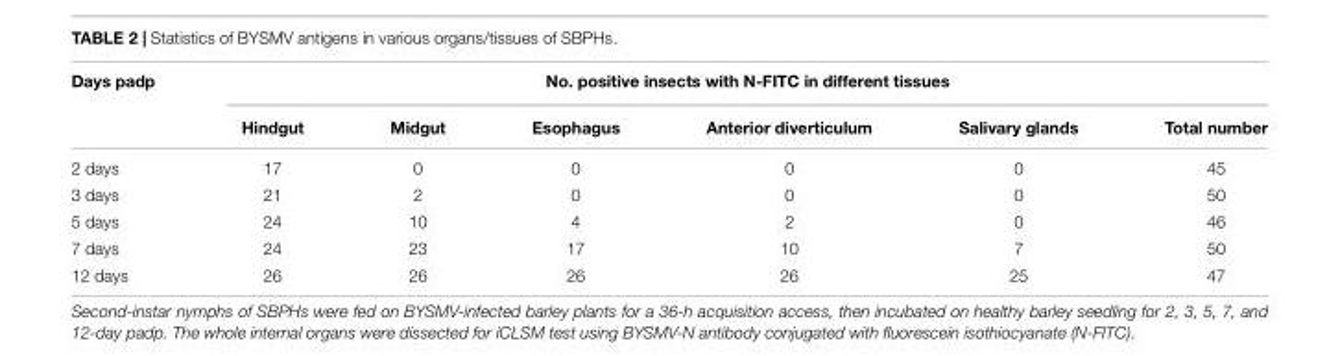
<table><thead><tr><td rowspan="2">Days padp</td><td colspan="6">No. positive insects with N-FITC in different tissues</td></tr><tr><td>Hindgut</td><td>Midgut</td><td>Esophagus</td><td>Anterior diverticulum</td><td>Salivary glands</td><td>Total number</td></tr></thead><tbody><tr><td>2 days</td><td>17</td><td>0</td><td>0</td><td>0</td><td>0</td><td>45</td></tr><tr><td>3 days</td><td>21</td><td>2</td><td>0</td><td>0</td><td>0</td><td>50</td></tr><tr><td>5 days</td><td>24</td><td>10</td><td>4</td><td>2</td><td>0</td><td>46</td></tr><tr><td>7 days</td><td>24</td><td>23</td><td>17</td><td>10</td><td>7</td><td>50</td></tr><tr><td>12 days</td><td>26</td><td>26</td><td>26</td><td>26</td><td>25</td><td>47</td></tr></tbody></table>